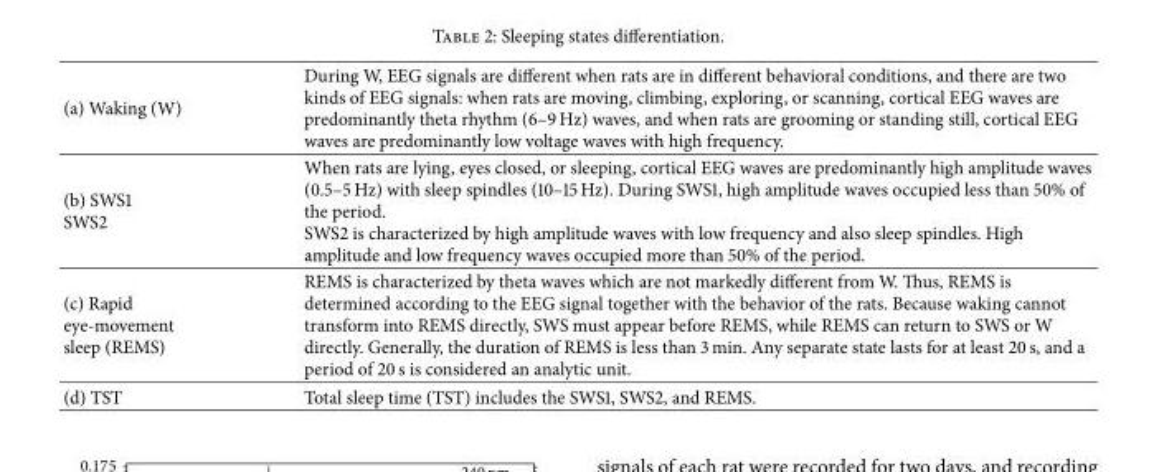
<table><tbody><tr><td>(a) Waking (W)</td><td>During W, EEG signals are different when rats are in different behavioral conditions, and there are two kinds of EEG signals: when rats are moving, climbing, exploring, or scanning, cortical EEG waves are predominantly theta rhythm (6–9 Hz) waves, and when rats are grooming or standing still, cortical EEG waves are predominantly low voltage waves with high frequency.</td></tr><tr><td>(b) SWS1 SWS2</td><td>When rats are lying, eyes closed, or sleeping, cortical EEG waves are predominantly high amplitude waves (0.5–5 Hz) with sleep spindles (10–15 Hz). During SWS1, high amplitude waves occupied less than 50% of the period. SWS2 is characterized by high amplitude waves with low frequency and also sleep spindles. High amplitude and low frequency waves occupied more than 50% of the period.</td></tr><tr><td>(c) Rapid eye-movement sleep (REMS)</td><td>REMS is characterized by theta waves which are not markedly different from W. Thus, REMS is determined according to the EEG signal together with the behavior of the rats. Because waking cannot transform into REMS directly, SWS must appear before REMS, while REMS can return to SWS or W directly. Generally, the duration of REMS is less than 3 min. Any separate state lasts for at least 20 s, and a period of 20 s is considered an analytic unit.</td></tr><tr><td>(d) TST</td><td>Total sleep time (TST) includes the SWS1, SWS2, and REMS.</td></tr></tbody></table>